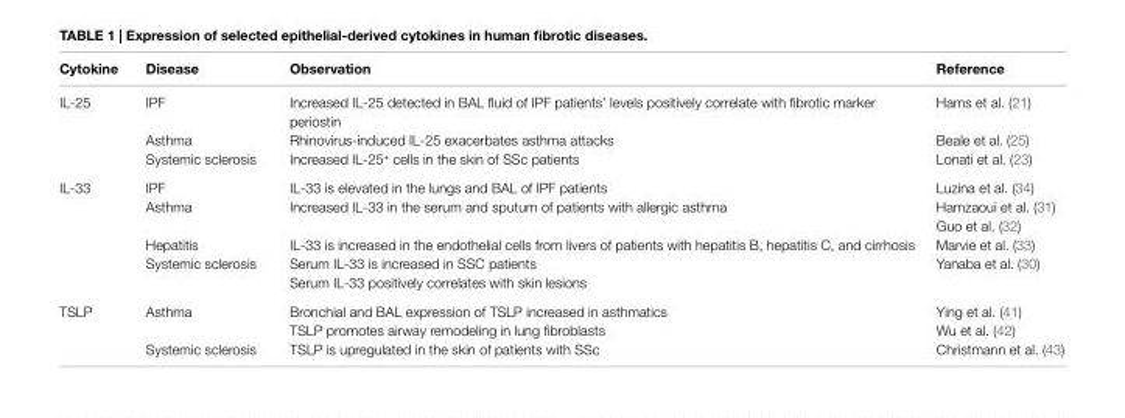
<table><thead><tr><td>Cytokine</td><td>Disease</td><td>Observation</td><td>Reference</td></tr></thead><tbody><tr><td rowspan="3">IL-25</td><td>IPF</td><td>Increased IL-25 detected in BAL fluid of IPF patients’ levels positively correlate with fibrotic marker periostin</td><td>Hams et al. (21)</td></tr><tr><td>Asthma</td><td>Rhinovirus-induced IL-25 exacerbates asthma attacks</td><td>Beale et al. (25)</td></tr><tr><td>Systemic sclerosis</td><td>Increased IL-25<sup>+</sup> cells in the skin of SSc patients</td><td>Lonati et al. (23)</td></tr><tr><td rowspan="6">IL-33</td><td>IPF</td><td>IL-33 is elevated in the lungs and BAL of IPF patients</td><td>Luzina et al. (34)</td></tr><tr><td rowspan="2">Asthma</td><td rowspan="2">Increased IL-33 in the serum and sputum of patients with allergic asthma</td><td>Hamzaoui et al. (31)</td></tr><tr><td>Guo et al. (32)</td></tr><tr><td>Hepatitis</td><td>IL-33 is increased in the endothelial cells from livers of patients with hepatitis B, hepatitis C, and cirrhosis</td><td>Marvie et al. (33)</td></tr><tr><td rowspan="2">Systemic sclerosis</td><td>Serum IL-33 is increased in SSC patients</td><td rowspan="2">Yanaba et al. (30)</td></tr><tr><td>Serum IL-33 positively correlates with skin lesions</td></tr><tr><td rowspan="3">TSLP</td><td rowspan="2">Asthma</td><td>Bronchial and BAL expression of TSLP increased in asthmatics</td><td>Ying et al. (41)</td></tr><tr><td>TSLP promotes airway remodeling in lung fibroblasts</td><td>Wu et al. (42)</td></tr><tr><td>Systemic sclerosis</td><td>TSLP is upregulated in the skin of patients with SSc</td><td>Christmann et al. (43)</td></tr></tbody></table>